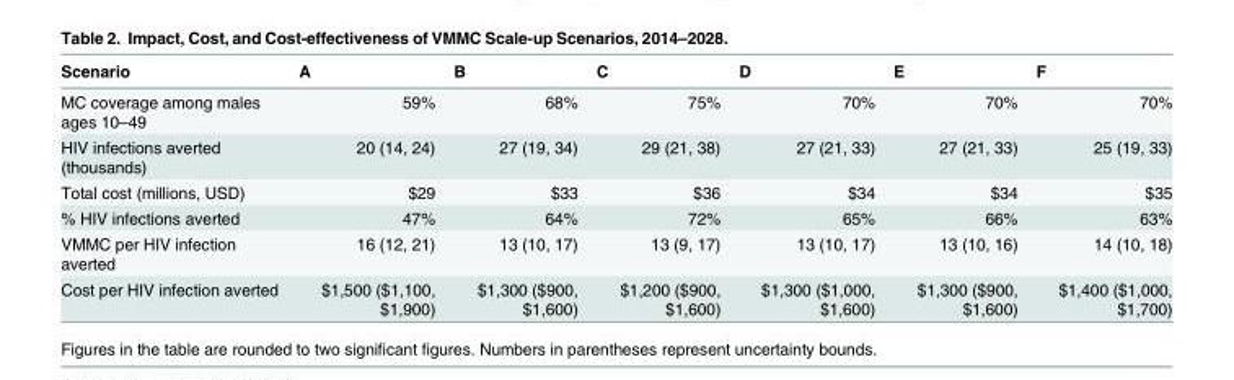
<table><thead><tr><td>Scenario</td><td>A</td><td>B</td><td>C</td><td>D</td><td>E</td><td>F</td></tr></thead><tbody><tr><td>MC coverage among males ages 10–49</td><td>59%</td><td>68%</td><td>75%</td><td>70%</td><td>70%</td><td>70%</td></tr><tr><td>HIV infections averted (thousands)</td><td>20 (14, 24)</td><td>27 (19, 34)</td><td>29 (21, 38)</td><td>27 (21, 33)</td><td>27 (21, 33)</td><td>25 (19, 33)</td></tr><tr><td>Total cost (millions, USD)</td><td>$29</td><td>$33</td><td>$36</td><td>$34</td><td>$34</td><td>$35</td></tr><tr><td>% HIV infections averted</td><td>47%</td><td>64%</td><td>72%</td><td>65%</td><td>66%</td><td>63%</td></tr><tr><td>VMMC per HIV infection averted</td><td>16 (12, 21)</td><td>13 (10, 17)</td><td>13 (9, 17)</td><td>13 (10, 17)</td><td>13 (10, 16)</td><td>14 (10, 18)</td></tr><tr><td>Cost per HIV infection averted</td><td>$1,500 ($1,100, $1,900)</td><td>$1,300 ($900, $1,600)</td><td>$1,200 ($900, $1,600)</td><td>$1,300 ($1,000, $1,600)</td><td>$1,300 ($900, $1,600)</td><td>$1,400 ($1,000, $1,700)</td></tr></tbody></table>